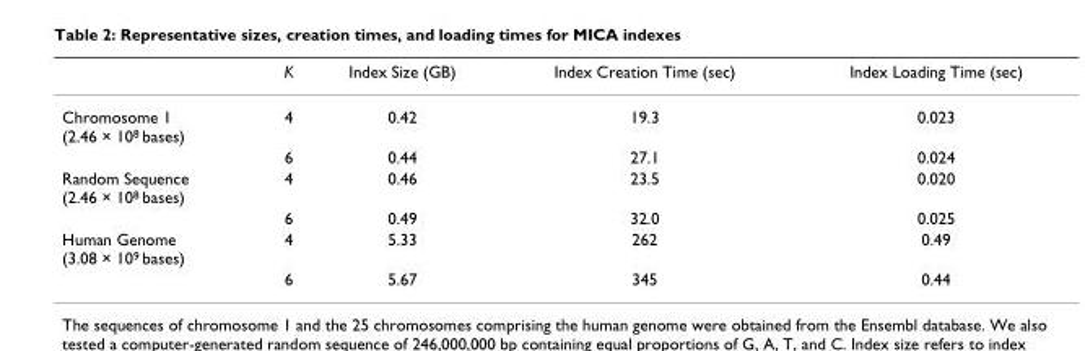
<table><thead><tr><td></td><td>K</td><td>Index Size (GB)</td><td>Index Creation Time (sec)</td><td>Index Loading Time (sec)</td></tr></thead><tbody><tr><td rowspan="2">Chromosome 1 (2.46 × 10<sup>8</sup> bases)</td><td>4</td><td>0.42</td><td>19.3</td><td>0.023</td></tr><tr><td>6</td><td>0.44</td><td>27.1</td><td>0.024</td></tr><tr><td rowspan="2">Random Sequence (2.46 × 10<sup>8</sup> bases)</td><td>4</td><td>0.46</td><td>23.5</td><td>0.020</td></tr><tr><td>6</td><td>0.49</td><td>32.0</td><td>0.025</td></tr><tr><td rowspan="2">Human Genome (3.08 × 10<sup>9</sup> bases)</td><td>4</td><td>5.33</td><td>262</td><td>0.49</td></tr><tr><td>6</td><td>5.67</td><td>345</td><td>0.44</td></tr></tbody></table>